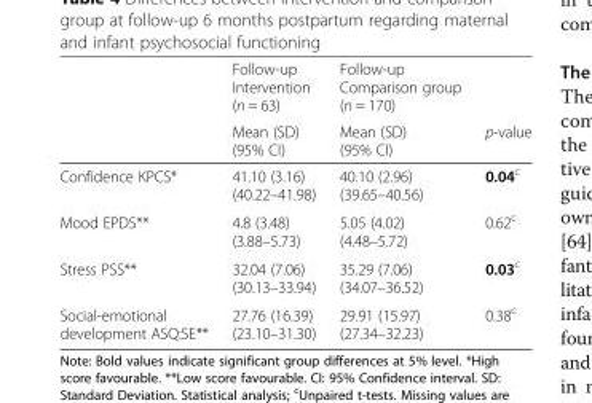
<table><thead><tr><td rowspan="2"></td><td rowspan="2">Follow-up Intervention (n = 63) Mean (SD) (95% CI)</td><td rowspan="2">Follow-up Comparison group (n = 170) Mean (SD) (95% CI)</td><td rowspan="2">p-value</td></tr><tr></tr></thead><tbody><tr><td>Confidence KPCS*</td><td>41.10 (3.16) (40.22–41.98)</td><td>40.10 (2.96) (39.65–40.56)</td><td>0.04<sup>c</sup></td></tr><tr><td>Mood EPDS**</td><td>4.8 (3.48) (3.88–5.73)</td><td>5.05 (4.02) (4.48–5.72)</td><td>0.62<sup>c</sup></td></tr><tr><td>Stress PSS**</td><td>32.04 (7.06) (30.13–33.94)</td><td>35.29 (7.06) (34.07–36.52)</td><td>0.03<sup>c</sup></td></tr><tr><td>Social-emotional development ASQ:SE**</td><td>27.76 (16.39) (23.10–31.30)</td><td>29.91 (15.97) (27.34–32.23)</td><td>0.38<sup>c</sup></td></tr></tbody></table>